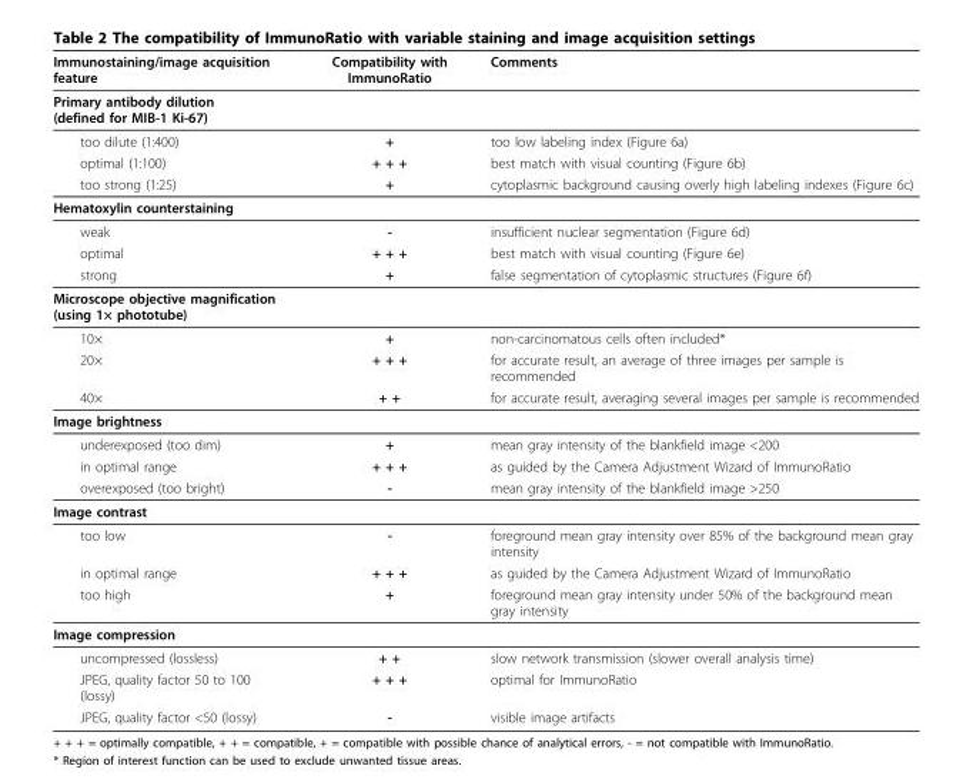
<table><thead><tr><td>Immunostaining/image acquisition feature</td><td>Compatibility with ImmunoRatio</td><td>Comments</td></tr></thead><tbody><tr><td colspan="3">Primary antibody dilution (defined for MIB-1 Ki-67)</td></tr><tr><td>too dilute (1:400)</td><td>+</td><td>too low labeling index (Figure 6a)</td></tr><tr><td>optimal (1:100)</td><td>+ + +</td><td>best match with visual counting (Figure 6b)</td></tr><tr><td>too strong (1:25)</td><td>+</td><td>cytoplasmic background causing overly high labeling indexes (Figure 6c)</td></tr><tr><td colspan="3">Hematoxylin counterstaining</td></tr><tr><td>weak</td><td>-</td><td>insufficient nuclear segmentation (Figure 6d)</td></tr><tr><td>optimal</td><td>+ + +</td><td>best match with visual counting (Figure 6e)</td></tr><tr><td>strong</td><td>+</td><td>false segmentation of cytoplasmic structures (Figure 6f)</td></tr><tr><td colspan="3">Microscope objective magnification (using 1× phototube)</td></tr><tr><td>10×</td><td>+</td><td>non-carcinomatous cells often included*</td></tr><tr><td>20×</td><td>+ + +</td><td>for accurate result, an average of three images per sample is recommended</td></tr><tr><td>40×</td><td>+ +</td><td>for accurate result, averaging several images per sample is recommended</td></tr><tr><td colspan="3">Image brightness</td></tr><tr><td>underexposed (too dim)</td><td>+</td><td>mean gray intensity of the blankfield image &lt;200</td></tr><tr><td>in optimal range</td><td>+ + +</td><td>as guided by the Camera Adjustment Wizard of ImmunoRatio</td></tr><tr><td>overexposed (too bright)</td><td>-</td><td>mean gray intensity of the blankfield image &gt;250</td></tr><tr><td colspan="3">Image contrast</td></tr><tr><td>too low</td><td>-</td><td>foreground mean gray intensity over 85% of the background mean gray intensity</td></tr><tr><td>in optimal range</td><td>+ + +</td><td>as guided by the Camera Adjustment Wizard of ImmunoRatio</td></tr><tr><td>too high</td><td>+</td><td>foreground mean gray intensity under 50% of the background mean gray intensity</td></tr><tr><td colspan="3">Image compression</td></tr><tr><td>uncompressed (lossless)</td><td>+ +</td><td>slow network transmission (slower overall analysis time)</td></tr><tr><td>JPEG, quality factor 50 to 100 (lossy)</td><td>+ + +</td><td>optimal for ImmunoRatio</td></tr><tr><td>JPEG, quality factor &lt;50 (lossy)</td><td>-</td><td>visible image artifacts</td></tr></tbody></table>